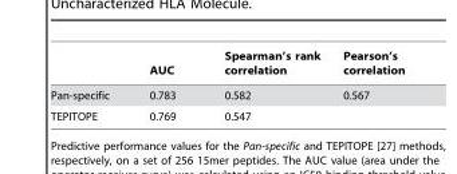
<table><thead><tr><td></td><td>AUC</td><td>Spearman’s rank correlation</td><td>Pearson’s correlation</td></tr></thead><tbody><tr><td>Pan-specific</td><td>0.783</td><td>0.582</td><td>0.567</td></tr><tr><td>TEPITOPE</td><td>0.769</td><td>0.547</td><td></td></tr></tbody></table>